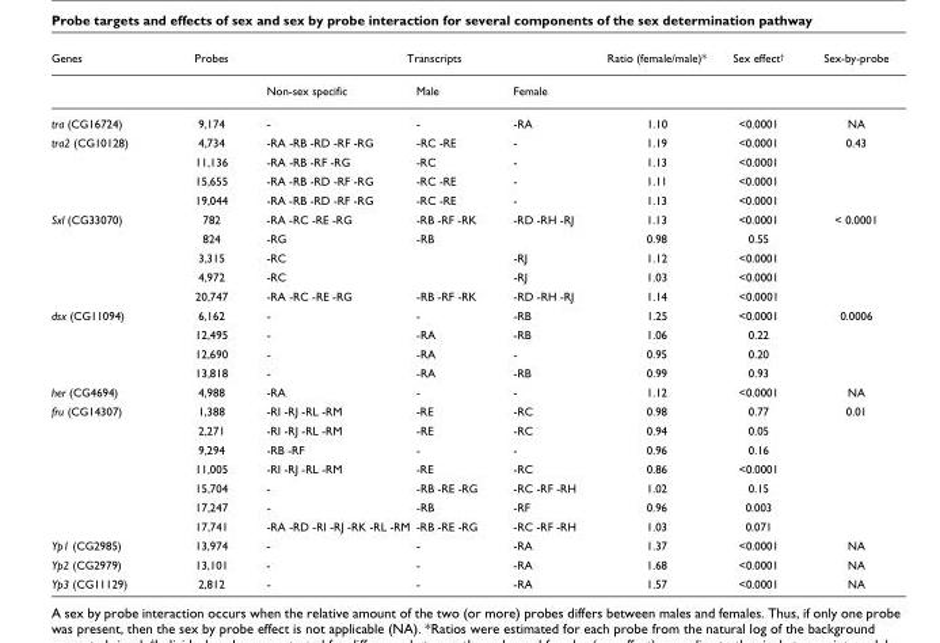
<table><thead><tr><td rowspan="2">Genes</td><td rowspan="2">Probes</td><td colspan="3">Transcripts</td><td rowspan="2">Ratio (female/male)*</td><td rowspan="2">Sex effect†</td><td rowspan="2">Sex-by-probe</td></tr><tr><td>Non-sex specific</td><td>Male</td><td>Female</td></tr></thead><tbody><tr><td>tra (CG16724)</td><td>9,174</td><td>-</td><td>-</td><td>-RA</td><td>1.10</td><td>&lt;0.0001</td><td>NA</td></tr><tr><td rowspan="4">tra2 (CG10128)</td><td>4,734</td><td>-RA -RB -RD -RF -RG</td><td>-RC -RE</td><td>-</td><td>1.19</td><td>&lt;0.0001</td><td>0.43</td></tr><tr><td>11,136</td><td>-RA -RB -RF -RG</td><td>-RC</td><td>-</td><td>1.13</td><td>&lt;0.0001</td><td></td></tr><tr><td>15,655</td><td>-RA -RB -RD -RF -RG</td><td>-RC -RE</td><td>-</td><td>1.11</td><td>&lt;0.0001</td><td></td></tr><tr><td>19,044</td><td>-RA -RB -RD -RF -RG</td><td>-RC -RE</td><td>-</td><td>1.13</td><td>&lt;0.0001</td><td></td></tr><tr><td rowspan="5">Sxl (CG33070)</td><td>782</td><td>-RA -RC -RE -RG</td><td>-RB -RF -RK</td><td>-RD -RH -RJ</td><td>1.13</td><td>&lt;0.0001</td><td>&lt; 0.0001</td></tr><tr><td>824</td><td>-RG</td><td>-RB</td><td></td><td>0.98</td><td>0.55</td><td></td></tr><tr><td>3,315</td><td>-RC</td><td></td><td>-RJ</td><td>1.12</td><td>&lt;0.0001</td><td></td></tr><tr><td>4,972</td><td>-RC</td><td></td><td>-RJ</td><td>1.03</td><td>&lt;0.0001</td><td></td></tr><tr><td>20,747</td><td>-RA -RC -RE -RG</td><td>-RB -RF -RK</td><td>-RD -RH -RJ</td><td>1.14</td><td>&lt;0.0001</td><td></td></tr><tr><td rowspan="4">dsx (CG11094)</td><td>6,162</td><td>-</td><td>-</td><td>-RB</td><td>1.25</td><td>&lt;0.0001</td><td>0.0006</td></tr><tr><td>12,495</td><td>-</td><td>-RA</td><td>-RB</td><td>1.06</td><td>0.22</td><td></td></tr><tr><td>12,690</td><td>-</td><td>-RA</td><td>-</td><td>0.95</td><td>0.20</td><td></td></tr><tr><td>13,818</td><td>-</td><td>-RA</td><td>-RB</td><td>0.99</td><td>0.93</td><td></td></tr><tr><td>her (CG4694)</td><td>4,988</td><td>-RA</td><td>-</td><td>-</td><td>1.12</td><td>&lt;0.0001</td><td>NA</td></tr><tr><td rowspan="7">fru (CG14307)</td><td>1,388</td><td>-RI -RJ -RL -RM</td><td>-RE</td><td>-RC</td><td>0.98</td><td>0.77</td><td>0.01</td></tr><tr><td>2,271</td><td>-RI -RJ -RL -RM</td><td>-RE</td><td>-RC</td><td>0.94</td><td>0.05</td><td></td></tr><tr><td>9,294</td><td>-RB -RF</td><td>-</td><td>-</td><td>0.96</td><td>0.16</td><td></td></tr><tr><td>11,005</td><td>-RI -RJ -RL -RM</td><td>-RE</td><td>-RC</td><td>0.86</td><td>&lt;0.0001</td><td></td></tr><tr><td>15,704</td><td>-</td><td>-RB -RE -RG</td><td>-RC -RF -RH</td><td>1.02</td><td>0.15</td><td></td></tr><tr><td>17,247</td><td>-</td><td>-RB</td><td>-RF</td><td>0.96</td><td>0.003</td><td></td></tr><tr><td>17,741</td><td>-RA -RD -RI -RJ -RK -RL -RM</td><td>-RB -RE -RG</td><td>-RC -RF -RH</td><td>1.03</td><td>0.071</td><td></td></tr><tr><td>Yp1 (CG2985)</td><td>13,974</td><td>-</td><td>-</td><td>-RA</td><td>1.37</td><td>&lt;0.0001</td><td>NA</td></tr><tr><td>Yp2 (CG2979)</td><td>13,101</td><td>-</td><td>-</td><td>-RA</td><td>1.68</td><td>&lt;0.0001</td><td>NA</td></tr><tr><td>Yp3 (CG11129)</td><td>2,812</td><td>-</td><td>-</td><td>-RA</td><td>1.57</td><td>&lt;0.0001</td><td>NA</td></tr></tbody></table>